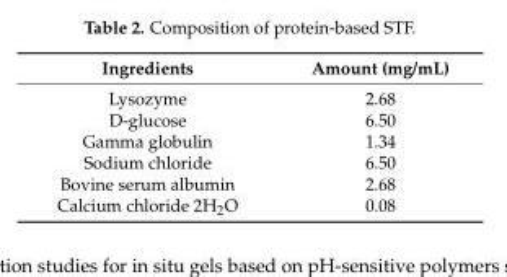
<table><thead><tr><td>Ingredients</td><td>Amount (mg/mL)</td></tr></thead><tbody><tr><td>Lysozyme</td><td>2.68</td></tr><tr><td>D-glucose</td><td>6.50</td></tr><tr><td>Gamma globulin</td><td>1.34</td></tr><tr><td>Sodium chloride</td><td>6.50</td></tr><tr><td>Bovine serum albumin</td><td>2.68</td></tr><tr><td>Calcium chloride 2H<sub>2</sub>O</td><td>0.08</td></tr></tbody></table>